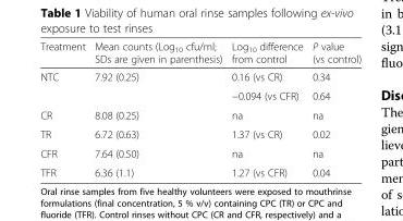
<table><thead><tr><td>Treatment</td><td>Mean counts (Log<sub>10</sub> cfu/ml; SDs are given in parenthesis)</td><td>Log<sub>10</sub> difference from control</td><td>P value (vs control)</td></tr></thead><tbody><tr><td rowspan="2">NTC</td><td rowspan="2">7.92 (0.25)</td><td>0.16 (vs CR)</td><td>0.34</td></tr><tr><td>−0.094 (vs CFR)</td><td>0.64</td></tr><tr><td>CR</td><td>8.08 (0.25)</td><td>na</td><td>na</td></tr><tr><td>TR</td><td>6.72 (0.63)</td><td>1.37 (vs CR)</td><td>0.02</td></tr><tr><td>CFR</td><td>7.64 (0.50)</td><td>na</td><td>na</td></tr><tr><td>TFR</td><td>6.36 (1.1)</td><td>1.27 (vs CFR)</td><td>0.04</td></tr></tbody></table>